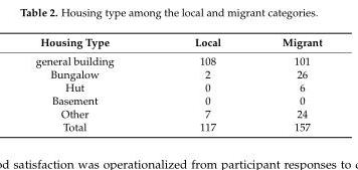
<table><thead><tr><td>Housing Type</td><td>Local</td><td>Migrant</td></tr></thead><tbody><tr><td>general building</td><td>108</td><td>101</td></tr><tr><td>Bungalow</td><td>2</td><td>26</td></tr><tr><td>Hut</td><td>0</td><td>6</td></tr><tr><td>Basement</td><td>0</td><td>0</td></tr><tr><td>Other</td><td>7</td><td>24</td></tr><tr><td>Total</td><td>117</td><td>157</td></tr></tbody></table>